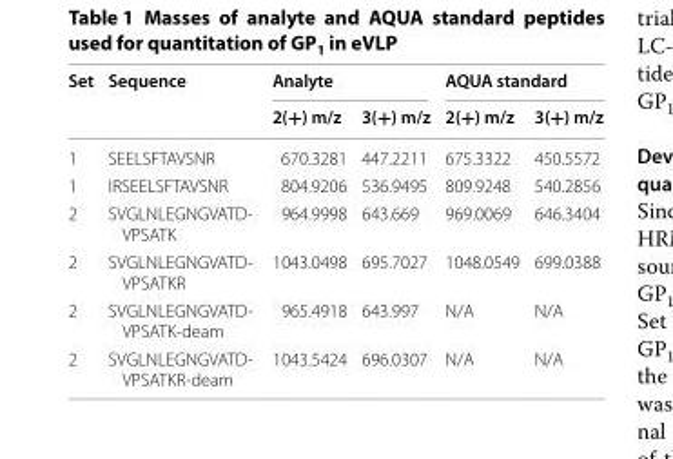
<table><thead><tr><td rowspan="2">Set</td><td rowspan="2">Sequence</td><td colspan="2">Analyte</td><td colspan="2">AQUA standard</td></tr><tr><td>2(+) m/z</td><td>3(+) m/z</td><td>2(+) m/z</td><td>3(+) m/z</td></tr></thead><tbody><tr><td>1</td><td>SEELSFTAVSNR</td><td>670.3281</td><td>447.2211</td><td>675.3322</td><td>450.5572</td></tr><tr><td>1</td><td>IRSEELSFTAVSNR</td><td>804.9206</td><td>536.9495</td><td>809.9248</td><td>540.2856</td></tr><tr><td>2</td><td>SVGLNLEGNGVATD- VPSATK</td><td>964.9998</td><td>643.669</td><td>969.0069</td><td>646.3404</td></tr><tr><td>2</td><td>SVGLNLEGNGVATD- VPSATKR</td><td>1043.0498</td><td>695.7027</td><td>1048.0549</td><td>699.0388</td></tr><tr><td>2</td><td>SVGLNLEGNGVATD- VPSATK-deam</td><td>965.4918</td><td>643.997</td><td>N/A</td><td>N/A</td></tr><tr><td>2</td><td>SVGLNLEGNGVATD- VPSATKR-deam</td><td>1043.5424</td><td>696.0307</td><td>N/A</td><td>N/A</td></tr></tbody></table>